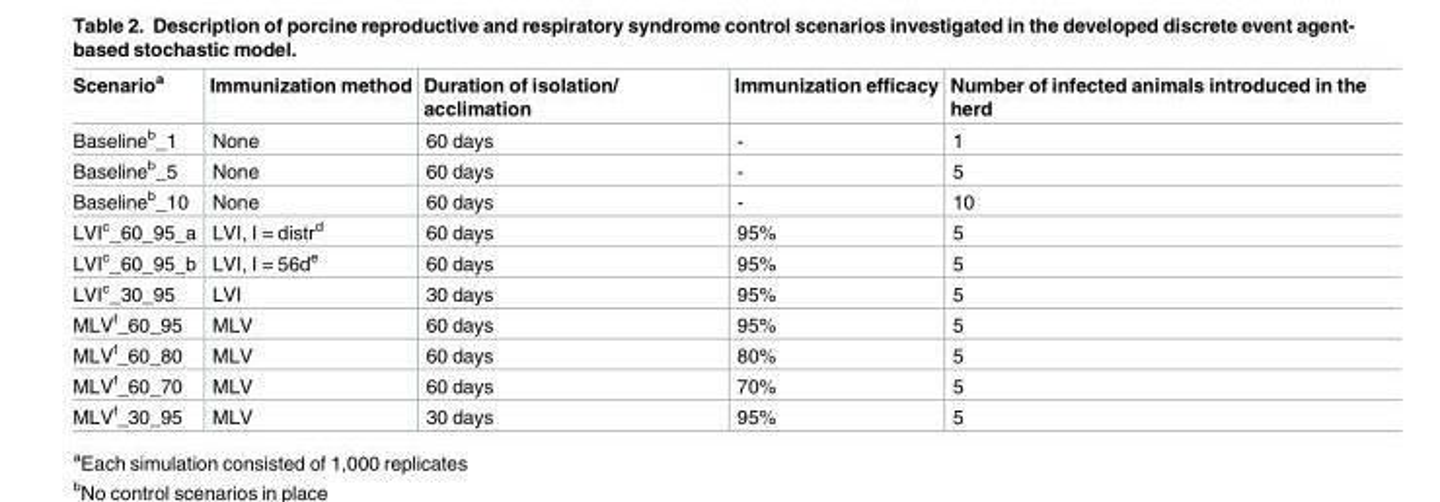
<table><thead><tr><td>Scenario<sup>a</sup></td><td>Immunization method</td><td>Duration of isolation/ acclimation</td><td>Immunization efficacy</td><td>Number of infected animals introduced in the herd</td></tr></thead><tbody><tr><td>Baseline<sup>b</sup>_1</td><td>None</td><td>60 days</td><td>-</td><td>1</td></tr><tr><td>Baseline<sup>b</sup>_5</td><td>None</td><td>60 days</td><td>-</td><td>5</td></tr><tr><td>Baseline<sup>b</sup>_10</td><td>None</td><td>60 days</td><td>-</td><td>10</td></tr><tr><td>LVI<sup>c</sup>_60_95_a</td><td>LVI, I = distr<sup>d</sup></td><td>60 days</td><td>95%</td><td>5</td></tr><tr><td>LVI<sup>c</sup>_60_95_b</td><td>LVI, I = 56d<sup>e</sup></td><td>60 days</td><td>95%</td><td>5</td></tr><tr><td>LVI<sup>c</sup>_30_95</td><td>LVI</td><td>30 days</td><td>95%</td><td>5</td></tr><tr><td>MLV<sup>f</sup>_60_95</td><td>MLV</td><td>60 days</td><td>95%</td><td>5</td></tr><tr><td>MLV<sup>f</sup>_60_80</td><td>MLV</td><td>60 days</td><td>80%</td><td>5</td></tr><tr><td>MLV<sup>f</sup>_60_70</td><td>MLV</td><td>60 days</td><td>70%</td><td>5</td></tr><tr><td>MLV<sup>f</sup>_30_95</td><td>MLV</td><td>30 days</td><td>95%</td><td>5</td></tr></tbody></table>